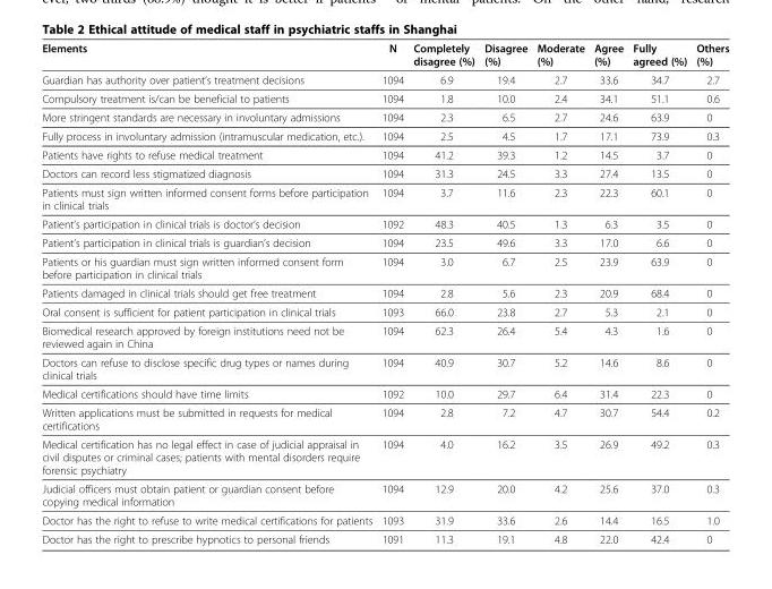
<table><thead><tr><td>Elements</td><td>N</td><td>Completely disagree (%)</td><td>Disagree (%)</td><td>Moderate (%)</td><td>Agree (%)</td><td>Fully agreed (%)</td><td>Others (%)</td></tr></thead><tbody><tr><td>Guardian has authority over patient’s treatment decisions</td><td>1094</td><td>6.9</td><td>19.4</td><td>2.7</td><td>33.6</td><td>34.7</td><td>2.7</td></tr><tr><td>Compulsory treatment is/can be beneficial to patients</td><td>1094</td><td>1.8</td><td>10.0</td><td>2.4</td><td>34.1</td><td>51.1</td><td>0.6</td></tr><tr><td>More stringent standards are necessary in involuntary admissions</td><td>1094</td><td>2.3</td><td>6.5</td><td>2.7</td><td>24.6</td><td>63.9</td><td>0</td></tr><tr><td>Fully process in involuntary admission (intramuscular medication, etc.).</td><td>1094</td><td>2.5</td><td>4.5</td><td>1.7</td><td>17.1</td><td>73.9</td><td>0.3</td></tr><tr><td>Patients have rights to refuse medical treatment</td><td>1094</td><td>41.2</td><td>39.3</td><td>1.2</td><td>14.5</td><td>3.7</td><td>0</td></tr><tr><td>Doctors can record less stigmatized diagnosis</td><td>1094</td><td>31.3</td><td>24.5</td><td>3.3</td><td>27.4</td><td>13.5</td><td>0</td></tr><tr><td>Patients must sign written informed consent forms before participation in clinical trials</td><td>1094</td><td>3.7</td><td>11.6</td><td>2.3</td><td>22.3</td><td>60.1</td><td>0</td></tr><tr><td>Patient’s participation in clinical trials is doctor’s decision</td><td>1092</td><td>48.3</td><td>40.5</td><td>1.3</td><td>6.3</td><td>3.5</td><td>0</td></tr><tr><td>Patient’s participation in clinical trials is guardian’s decision</td><td>1094</td><td>23.5</td><td>49.6</td><td>3.3</td><td>17.0</td><td>6.6</td><td>0</td></tr><tr><td>Patients or his guardian must sign written informed consent form before participation in clinical trials</td><td>1094</td><td>3.0</td><td>6.7</td><td>2.5</td><td>23.9</td><td>63.9</td><td>0</td></tr><tr><td>Patients damaged in clinical trials should get free treatment</td><td>1094</td><td>2.8</td><td>5.6</td><td>2.3</td><td>20.9</td><td>68.4</td><td>0</td></tr><tr><td>Oral consent is sufficient for patient participation in clinical trials</td><td>1093</td><td>66.0</td><td>23.8</td><td>2.7</td><td>5.3</td><td>2.1</td><td>0</td></tr><tr><td>Biomedical research approved by foreign institutions need not be reviewed again in China</td><td>1094</td><td>62.3</td><td>26.4</td><td>5.4</td><td>4.3</td><td>1.6</td><td>0</td></tr><tr><td>Doctors can refuse to disclose specific drug types or names during clinical trials</td><td>1094</td><td>40.9</td><td>30.7</td><td>5.2</td><td>14.6</td><td>8.6</td><td>0</td></tr><tr><td>Medical certifications should have time limits</td><td>1092</td><td>10.0</td><td>29.7</td><td>6.4</td><td>31.4</td><td>22.3</td><td>0</td></tr><tr><td>Written applications must be submitted in requests for medical certifications</td><td>1094</td><td>2.8</td><td>7.2</td><td>4.7</td><td>30.7</td><td>54.4</td><td>0.2</td></tr><tr><td>Medical certification has no legal effect in case of judicial appraisal in civil disputes or criminal cases; patients with mental disorders require forensic psychiatry</td><td>1094</td><td>4.0</td><td>16.2</td><td>3.5</td><td>26.9</td><td>49.2</td><td>0.3</td></tr><tr><td>Judicial officers must obtain patient or guardian consent before copying medical information</td><td>1094</td><td>12.9</td><td>20.0</td><td>4.2</td><td>25.6</td><td>37.0</td><td>0.3</td></tr><tr><td>Doctor has the right to refuse to write medical certifications for patients</td><td>1093</td><td>31.9</td><td>33.6</td><td>2.6</td><td>14.4</td><td>16.5</td><td>1.0</td></tr><tr><td>Doctor has the right to prescribe hypnotics to personal friends</td><td>1091</td><td>11.3</td><td>19.1</td><td>4.8</td><td>22.0</td><td>42.4</td><td>0</td></tr></tbody></table>